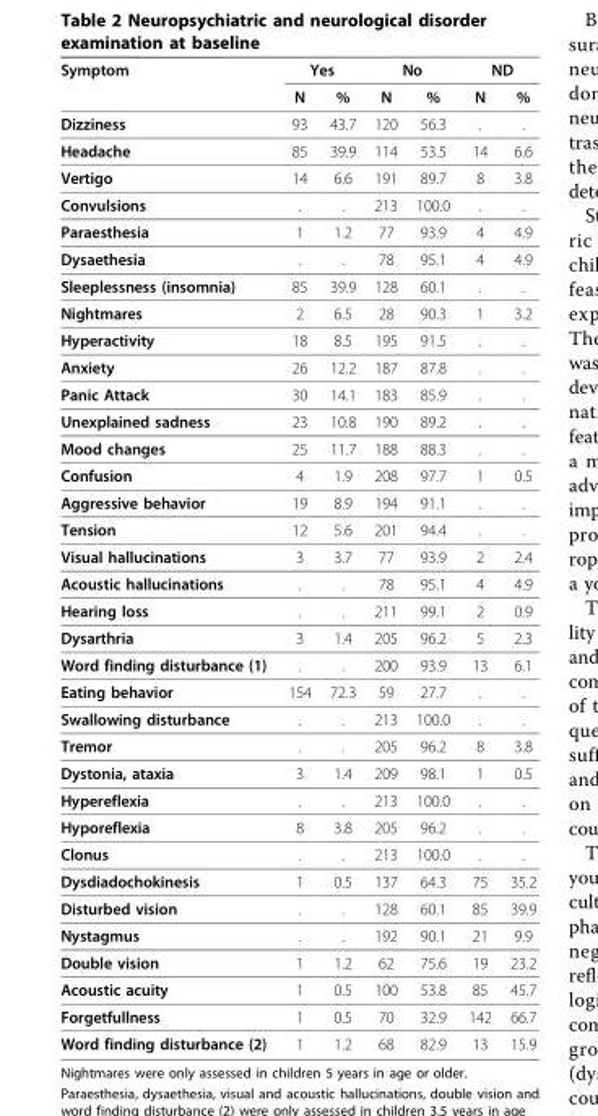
<table><thead><tr><td rowspan="2">Symptom</td><td colspan="2">Yes</td><td colspan="2">No</td><td colspan="2">ND</td></tr><tr><td>N</td><td>%</td><td>N</td><td>%</td><td>N</td><td>%</td></tr></thead><tbody><tr><td>Dizziness</td><td>93</td><td>43.7</td><td>120</td><td>56.3</td><td>.</td><td>.</td></tr><tr><td>Headache</td><td>85</td><td>39.9</td><td>114</td><td>53.5</td><td>14</td><td>6.6</td></tr><tr><td>Vertigo</td><td>14</td><td>6.6</td><td>191</td><td>89.7</td><td>8</td><td>3.8</td></tr><tr><td>Convulsions</td><td>.</td><td>.</td><td>213</td><td>100.0</td><td>.</td><td>.</td></tr><tr><td>Paraesthesia</td><td>1</td><td>1.2</td><td>77</td><td>93.9</td><td>4</td><td>4.9</td></tr><tr><td>Dysaethesia</td><td>.</td><td>.</td><td>78</td><td>95.1</td><td>4</td><td>4.9</td></tr><tr><td>Sleeplessness (insomnia)</td><td>85</td><td>39.9</td><td>128</td><td>60.1</td><td>.</td><td>.</td></tr><tr><td>Nightmares</td><td>2</td><td>6.5</td><td>28</td><td>90.3</td><td>1</td><td>3.2</td></tr><tr><td>Hyperactivity</td><td>18</td><td>8.5</td><td>195</td><td>91.5</td><td>.</td><td>.</td></tr><tr><td>Anxiety</td><td>26</td><td>12.2</td><td>187</td><td>87.8</td><td>.</td><td>.</td></tr><tr><td>Panic Attack</td><td>30</td><td>14.1</td><td>183</td><td>85.9</td><td>.</td><td>.</td></tr><tr><td>Unexplained sadness</td><td>23</td><td>10.8</td><td>190</td><td>89.2</td><td>.</td><td>.</td></tr><tr><td>Mood changes</td><td>25</td><td>11.7</td><td>188</td><td>88.3</td><td>.</td><td>.</td></tr><tr><td>Confusion</td><td>4</td><td>1.9</td><td>208</td><td>97.7</td><td>1</td><td>0.5</td></tr><tr><td>Aggressive behavior</td><td>19</td><td>8.9</td><td>194</td><td>91.1</td><td>.</td><td>.</td></tr><tr><td>Tension</td><td>12</td><td>5.6</td><td>201</td><td>94.4</td><td>.</td><td>.</td></tr><tr><td>Visual hallucinations</td><td>3</td><td>3.7</td><td>77</td><td>93.9</td><td>2</td><td>2.4</td></tr><tr><td>Acoustic hallucinations</td><td>.</td><td>.</td><td>78</td><td>95.1</td><td>4</td><td>4.9</td></tr><tr><td>Hearing loss</td><td>.</td><td>.</td><td>211</td><td>99.1</td><td>2</td><td>0.9</td></tr><tr><td>Dysarthria</td><td>3</td><td>1.4</td><td>205</td><td>96.2</td><td>5</td><td>2.3</td></tr><tr><td>Word finding disturbance (1)</td><td>.</td><td>.</td><td>200</td><td>93.9</td><td>13</td><td>6.1</td></tr><tr><td>Eating behavior</td><td>154</td><td>72.3</td><td>59</td><td>27.7</td><td>.</td><td>.</td></tr><tr><td>Swallowing disturbance</td><td>.</td><td>.</td><td>213</td><td>100.0</td><td>.</td><td>.</td></tr><tr><td>Tremor</td><td>.</td><td>.</td><td>205</td><td>96.2</td><td>8</td><td>3.8</td></tr><tr><td>Dystonia, ataxia</td><td>3</td><td>1.4</td><td>209</td><td>98.1</td><td>1</td><td>0.5</td></tr><tr><td>Hypereflexia</td><td>.</td><td>.</td><td>213</td><td>100.0</td><td>.</td><td>.</td></tr><tr><td>Hyporeflexia</td><td>8</td><td>3.8</td><td>205</td><td>96.2</td><td>.</td><td>.</td></tr><tr><td>Clonus</td><td>.</td><td>.</td><td>213</td><td>100.0</td><td>.</td><td>.</td></tr><tr><td>Dysdiadochokinesis</td><td>1</td><td>0.5</td><td>137</td><td>64.3</td><td>75</td><td>35.2</td></tr><tr><td>Disturbed vision</td><td>.</td><td>.</td><td>128</td><td>60.1</td><td>85</td><td>39.9</td></tr><tr><td>Nystagmus</td><td>.</td><td>.</td><td>192</td><td>90.1</td><td>21</td><td>9.9</td></tr><tr><td>Double vision</td><td>1</td><td>1.2</td><td>62</td><td>75.6</td><td>19</td><td>23.2</td></tr><tr><td>Acoustic acuity</td><td>1</td><td>0.5</td><td>100</td><td>53.8</td><td>85</td><td>45.7</td></tr><tr><td>Forgetfullness</td><td>1</td><td>0.5</td><td>70</td><td>32.9</td><td>142</td><td>66.7</td></tr><tr><td>Word finding disturbance (2)</td><td>1</td><td>1.2</td><td>68</td><td>82.9</td><td>13</td><td>15.9</td></tr></tbody></table>